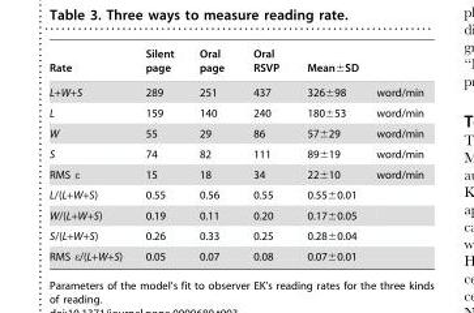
<table><thead><tr><td>Rate</td><td>Silent page</td><td>Oral page</td><td>Oral RSVP</td><td>Mean±SD</td><td></td></tr></thead><tbody><tr><td>L+W+S</td><td>289</td><td>251</td><td>437</td><td>326±98</td><td>word/min</td></tr><tr><td>L</td><td>159</td><td>140</td><td>240</td><td>180±53</td><td>word/min</td></tr><tr><td>W</td><td>55</td><td>29</td><td>86</td><td>57±29</td><td>word/min</td></tr><tr><td>S</td><td>74</td><td>82</td><td>111</td><td>89±19</td><td>word/min</td></tr><tr><td>RMS ε</td><td>15</td><td>18</td><td>34</td><td>22±10</td><td>word/min</td></tr><tr><td>L/(L+W+S)</td><td>0.55</td><td>0.56</td><td>0.55</td><td>0.55±0.01</td><td></td></tr><tr><td>W/(L+W+S)</td><td>0.19</td><td>0.11</td><td>0.20</td><td>0.17±0.05</td><td></td></tr><tr><td>S/(L+W+S)</td><td>0.26</td><td>0.33</td><td>0.25</td><td>0.28±0.04</td><td></td></tr><tr><td>RMS ε/(L+W+S)</td><td>0.05</td><td>0.07</td><td>0.08</td><td>0.07±0.01</td><td></td></tr></tbody></table>